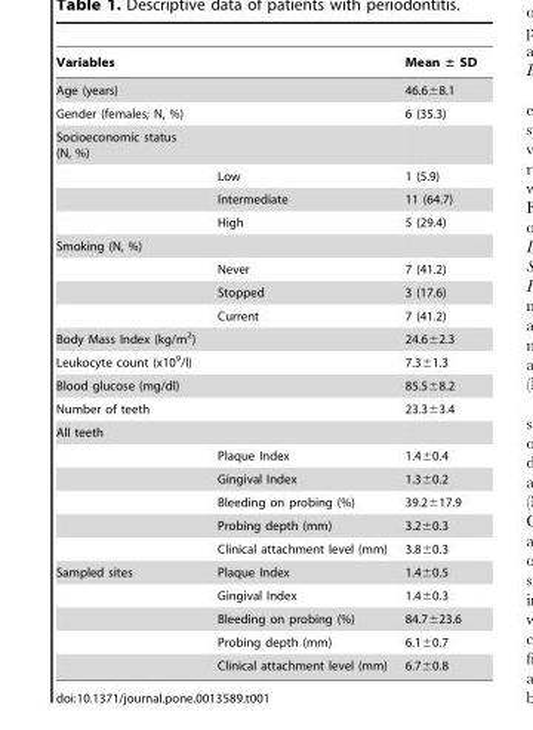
<table><thead><tr><td>Variables</td><td></td><td>Mean ± SD</td></tr></thead><tbody><tr><td>Age (years)</td><td></td><td>46.6±8.1</td></tr><tr><td>Gender (females; N, %)</td><td></td><td>6 (35.3)</td></tr><tr><td colspan="3">Socioeconomic status (N, %)</td></tr><tr><td></td><td>Low</td><td>1 (5.9)</td></tr><tr><td></td><td>Intermediate</td><td>11 (64.7)</td></tr><tr><td></td><td>High</td><td>5 (29.4)</td></tr><tr><td colspan="3">Smoking (N, %)</td></tr><tr><td></td><td>Never</td><td>7 (41.2)</td></tr><tr><td></td><td>Stopped</td><td>3 (17.6)</td></tr><tr><td></td><td>Current</td><td>7 (41.2)</td></tr><tr><td>Body Mass Index (kg/m<sup>2</sup>)</td><td></td><td>24.6±2.3</td></tr><tr><td>Leukocyte count (x10<sup>9</sup>/l)</td><td></td><td>7.3±1.3</td></tr><tr><td>Blood glucose (mg/dl)</td><td></td><td>85.5±8.2</td></tr><tr><td>Number of teeth</td><td></td><td>23.3±3.4</td></tr><tr><td colspan="3">All teeth</td></tr><tr><td></td><td>Plaque Index</td><td>1.4±0.4</td></tr><tr><td></td><td>Gingival Index</td><td>1.3±0.2</td></tr><tr><td></td><td>Bleeding on probing (%)</td><td>39.2±17.9</td></tr><tr><td></td><td>Probing depth (mm)</td><td>3.2±0.3</td></tr><tr><td></td><td>Clinical attachment level (mm)</td><td>3.8±0.3</td></tr><tr><td rowspan="5">Sampled sites</td><td>Plaque Index</td><td>1.4±0.5</td></tr><tr><td>Gingival Index</td><td>1.4±0.3</td></tr><tr><td>Bleeding on probing (%)</td><td>84.7±23.6</td></tr><tr><td>Probing depth (mm)</td><td>6.1±0.7</td></tr><tr><td>Clinical attachment level (mm)</td><td>6.7±0.8</td></tr></tbody></table>